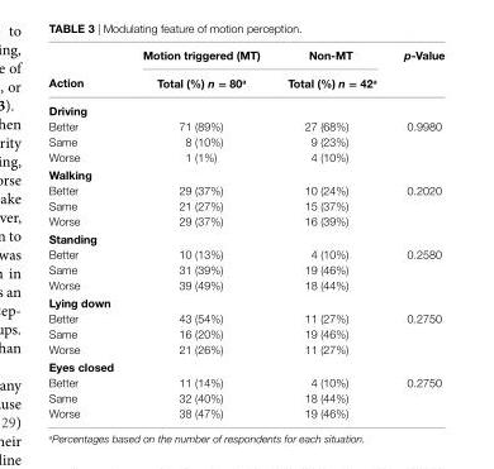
<table><thead><tr><td rowspan="2">action</td><td rowspan="2">Motion triggered (MT) Total (%) n = 80<sup>a</sup></td><td rowspan="2">non-MT Total (%) n = 42<sup>a</sup></td><td rowspan="2">p-Value</td></tr><tr></tr></thead><tbody><tr><td colspan="4">Driving</td></tr><tr><td>Better</td><td>71 (89%)</td><td>27 (68%)</td><td>0.9980</td></tr><tr><td>Same</td><td>8 (10%)</td><td>9 (23%)</td><td></td></tr><tr><td>Worse</td><td>1 (1%)</td><td>4 (10%)</td><td></td></tr><tr><td colspan="4">Walking</td></tr><tr><td>Better</td><td>29 (37%)</td><td>10 (24%)</td><td>0.2020</td></tr><tr><td>Same</td><td>21 (27%)</td><td>15 (37%)</td><td></td></tr><tr><td>Worse</td><td>29 (37%)</td><td>16 (39%)</td><td></td></tr><tr><td colspan="4">standing</td></tr><tr><td>Better</td><td>10 (13%)</td><td>4 (10%)</td><td>0.2580</td></tr><tr><td>Same</td><td>31 (39%)</td><td>19 (46%)</td><td></td></tr><tr><td>Worse</td><td>39 (49%)</td><td>18 (44%)</td><td></td></tr><tr><td colspan="4">lying down</td></tr><tr><td>Better</td><td>43 (54%)</td><td>11 (27%)</td><td>0.2750</td></tr><tr><td>Same</td><td>16 (20%)</td><td>19 (46%)</td><td></td></tr><tr><td>Worse</td><td>21 (26%)</td><td>11 (27%)</td><td></td></tr><tr><td colspan="4">eyes closed</td></tr><tr><td>Better</td><td>11 (14%)</td><td>4 (10%)</td><td>0.2750</td></tr><tr><td>Same</td><td>32 (40%)</td><td>18 (44%)</td><td></td></tr><tr><td>Worse</td><td>38 (47%)</td><td>19 (46%)</td><td></td></tr></tbody></table>